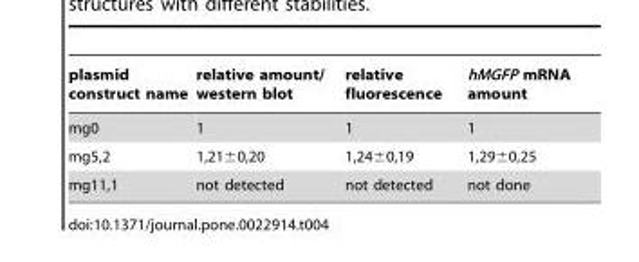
<table><thead><tr><td>plasmid construct name</td><td>relative amount/ western blot</td><td>relative fluorescence</td><td>hMGFP mRNA amount</td></tr></thead><tbody><tr><td>mg0</td><td>1</td><td>1</td><td>1</td></tr><tr><td>mg5,2</td><td>1,21±0,20</td><td>1,24±0,19</td><td>1,29±0,25</td></tr><tr><td>mg11,1</td><td>not detected</td><td>not detected</td><td>not done</td></tr></tbody></table>